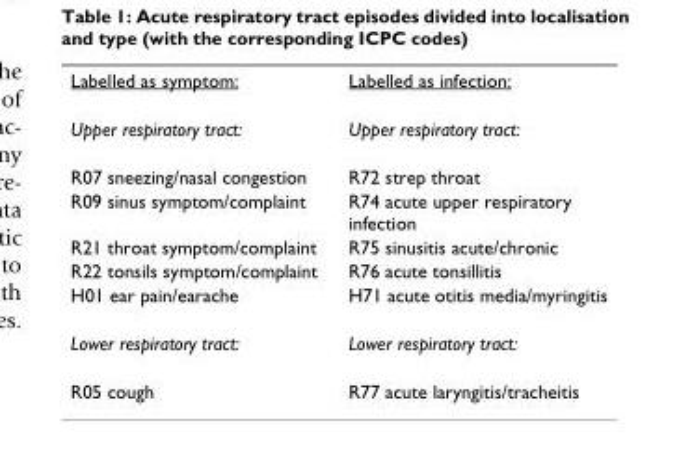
<table><tbody><tr><td>Labelled as symptom:</td><td>Labelled as infection:</td></tr><tr><td>Upper respiratory tract:</td><td>Upper respiratory tract:</td></tr><tr><td>R07 sneezing/nasal congestion</td><td>R72 strep throat</td></tr><tr><td>R09 sinus symptom/complaint</td><td>R74 acute upper respiratory infection</td></tr><tr><td>R21 throat symptom/complaint</td><td>R75 sinusitis acute/chronic</td></tr><tr><td>R22 tonsils symptom/complaint</td><td>R76 acute tonsillitis</td></tr><tr><td>H01 ear pain/earache</td><td>H71 acute otitis media/myringitis</td></tr><tr><td>Lower respiratory tract:</td><td>Lower respiratory tract:</td></tr><tr><td>R05 cough</td><td>R77 acute laryngitis/tracheitis</td></tr></tbody></table>